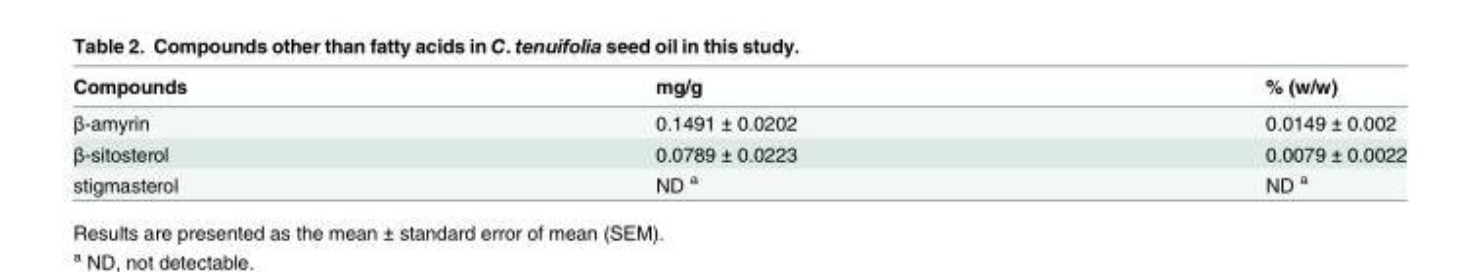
<table><thead><tr><td>Compounds</td><td>mg/g</td><td>% (w/w)</td></tr></thead><tbody><tr><td>β-amyrin</td><td>0.1491 ± 0.0202</td><td>0.0149 ± 0.002</td></tr><tr><td>β-sitosterol</td><td>0.0789 ± 0.0223</td><td>0.0079 ± 0.0022</td></tr><tr><td>stigmasterol</td><td>ND <sup>a</sup></td><td>ND <sup>a</sup></td></tr></tbody></table>